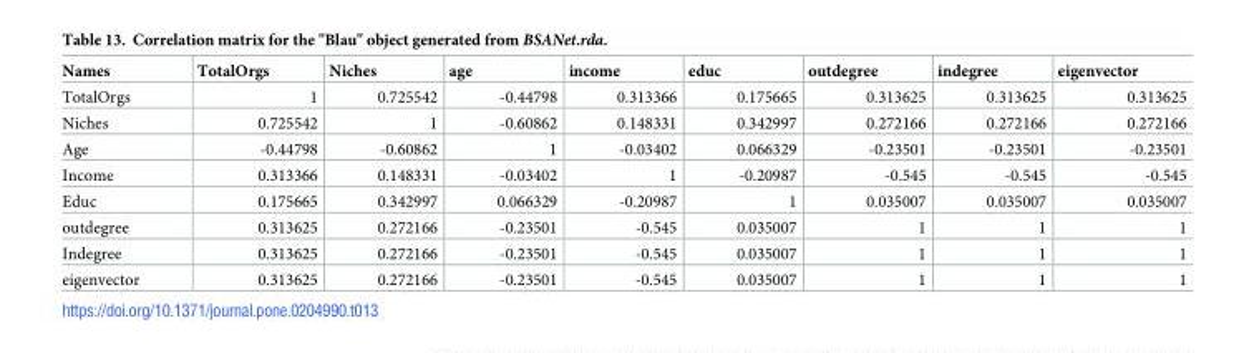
<table><thead><tr><td>Names</td><td>TotalOrgs</td><td>Niches</td><td>age</td><td>income</td><td>educ</td><td>outdegree</td><td>indegree</td><td>eigenvector</td></tr></thead><tbody><tr><td>TotalOrgs</td><td>1</td><td>0.725542</td><td>-0.44798</td><td>0.313366</td><td>0.175665</td><td>0.313625</td><td>0.313625</td><td>0.313625</td></tr><tr><td>Niches</td><td>0.725542</td><td>1</td><td>-0.60862</td><td>0.148331</td><td>0.342997</td><td>0.272166</td><td>0.272166</td><td>0.272166</td></tr><tr><td>Age</td><td>-0.44798</td><td>-0.60862</td><td>1</td><td>-0.03402</td><td>0.066329</td><td>-0.23501</td><td>-0.23501</td><td>-0.23501</td></tr><tr><td>Income</td><td>0.313366</td><td>0.148331</td><td>-0.03402</td><td>1</td><td>-0.20987</td><td>-0.545</td><td>-0.545</td><td>-0.545</td></tr><tr><td>Educ</td><td>0.175665</td><td>0.342997</td><td>0.066329</td><td>-0.20987</td><td>1</td><td>0.035007</td><td>0.035007</td><td>0.035007</td></tr><tr><td>outdegree</td><td>0.313625</td><td>0.272166</td><td>-0.23501</td><td>-0.545</td><td>0.035007</td><td>1</td><td>1</td><td>1</td></tr><tr><td>Indegree</td><td>0.313625</td><td>0.272166</td><td>-0.23501</td><td>-0.545</td><td>0.035007</td><td>1</td><td>1</td><td>1</td></tr><tr><td>eigenvector</td><td>0.313625</td><td>0.272166</td><td>-0.23501</td><td>-0.545</td><td>0.035007</td><td>1</td><td>1</td><td>1</td></tr></tbody></table>